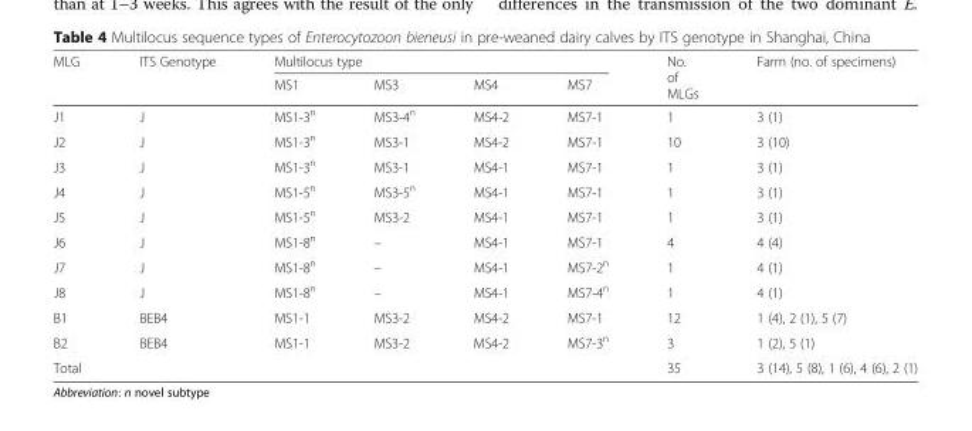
<table><thead><tr><td rowspan="2">MLG</td><td rowspan="2">ITS Genotype</td><td colspan="4">Multilocus type</td><td rowspan="2">No. of MLGs</td><td rowspan="2">Farm (no. of specimens)</td></tr><tr><td>MS1</td><td>MS3</td><td>MS4</td><td>MS7</td></tr></thead><tbody><tr><td>J1</td><td>J</td><td>MS1-3<sup>n</sup></td><td>MS3-4<sup>n</sup></td><td>MS4-2</td><td>MS7-1</td><td>1</td><td>3 (1)</td></tr><tr><td>J2</td><td>J</td><td>MS1-3<sup>n</sup></td><td>MS3-1</td><td>MS4-2</td><td>MS7-1</td><td>10</td><td>3 (10)</td></tr><tr><td>J3</td><td>J</td><td>MS1-3<sup>n</sup></td><td>MS3-1</td><td>MS4-1</td><td>MS7-1</td><td>1</td><td>3 (1)</td></tr><tr><td>J4</td><td>J</td><td>MS1-5<sup>n</sup></td><td>MS3-5<sup>n</sup></td><td>MS4-1</td><td>MS7-1</td><td>1</td><td>3 (1)</td></tr><tr><td>J5</td><td>J</td><td>MS1-5<sup>n</sup></td><td>MS3-2</td><td>MS4-1</td><td>MS7-1</td><td>1</td><td>3 (1)</td></tr><tr><td>J6</td><td>J</td><td>MS1-8<sup>n</sup></td><td>–</td><td>MS4-1</td><td>MS7-1</td><td>4</td><td>4 (4)</td></tr><tr><td>J7</td><td>J</td><td>MS1-8<sup>n</sup></td><td>–</td><td>MS4-1</td><td>MS7-2<sup>n</sup></td><td>1</td><td>4 (1)</td></tr><tr><td>J8</td><td>J</td><td>MS1-8<sup>n</sup></td><td>–</td><td>MS4-1</td><td>MS7-4<sup>n</sup></td><td>1</td><td>4 (1)</td></tr><tr><td>B1</td><td>BEB4</td><td>MS1-1</td><td>MS3-2</td><td>MS4-2</td><td>MS7-1</td><td>12</td><td>1 (4), 2 (1), 5 (7)</td></tr><tr><td>B2</td><td>BEB4</td><td>MS1-1</td><td>MS3-2</td><td>MS4-2</td><td>MS7-3<sup>n</sup></td><td>3</td><td>1 (2), 5 (1)</td></tr><tr><td>Total</td><td></td><td></td><td></td><td></td><td></td><td>35</td><td>3 (14), 5 (8), 1 (6), 4 (6), 2 (1)</td></tr></tbody></table>